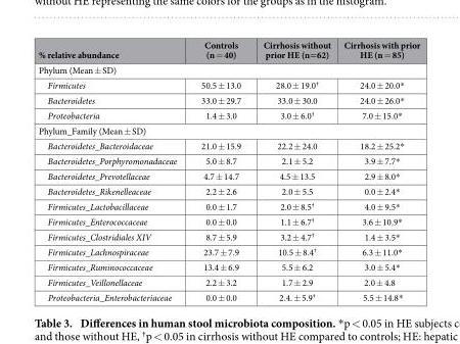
<table><thead><tr><td>% relative abundance</td><td>Controls (n = 40)</td><td>Cirrhosis without prior HE (n=62)</td><td>Cirrhosis with prior HE (n = 85)</td></tr></thead><tbody><tr><td colspan="4">Phylum (Mean ± SD)</td></tr><tr><td>Firmicutes</td><td>50.5 ± 13.0</td><td>28.0 ± 19.0<sup>†</sup></td><td>24.0 ± 20.0*</td></tr><tr><td>Bacteroidetes</td><td>33.0 ± 29.7</td><td>33.0 ± 30.0</td><td>24.0 ± 26.0*</td></tr><tr><td>Proteobacteria</td><td>1.4 ± 3.0</td><td>3.0 ± 6.0<sup>†</sup></td><td>7.0 ± 15.0*</td></tr><tr><td colspan="4">Phylum_Family (Mean ± SD)</td></tr><tr><td>Bacteroidetes_Bacteroidaceae</td><td>21.0 ± 15.9</td><td>22.2 ± 24.0</td><td>18.2 ± 25.2*</td></tr><tr><td>Bacteroidetes_Porphyromonadaceae</td><td>5.0 ± 8.7</td><td>2.1 ± 5.2</td><td>3.9 ± 7.7*</td></tr><tr><td>Bacteroidetes_Prevotellaceae</td><td>4.7 ± 14.7</td><td>4.5 ± 13.5</td><td>2.9 ± 8.0*</td></tr><tr><td>Bacteroidetes_Rikenelleaceae</td><td>2.2 ± 2.6</td><td>2.0 ± 5.5</td><td>0.0 ± 2.4*</td></tr><tr><td>Firmicutes_Lactobacillaceae</td><td>0.0 ± 1.7</td><td>2.0 ± 8.5<sup>†</sup></td><td>4.0 ± 9.5*</td></tr><tr><td>Firmicutes_Enterococcaceae</td><td>0.0 ± 0.0</td><td>1.1 ± 6.7<sup>†</sup></td><td>3.6 ± 10.9*</td></tr><tr><td>Firmicutes_Clostridiales XIV</td><td>8.7 ± 5.9</td><td>3.2 ± 4.7<sup>†</sup></td><td>1.4 ± 3.5*</td></tr><tr><td>Firmicutes_Lachnospiraceae</td><td>23.7 ± 7.9</td><td>10.5 ± 8.4<sup>†</sup></td><td>6.3 ± 11.0*</td></tr><tr><td>Firmicutes_Ruminococcaceae</td><td>13.4 ± 6.9</td><td>5.5 ± 6.2</td><td>3.0 ± 5.4*</td></tr><tr><td>Firmicutes_Veillonellaceae</td><td>2.2 ± 3.2</td><td>1.7 ± 2.9</td><td>2.0 ± 4.8</td></tr><tr><td>Proteobacteria_Enterobacteriaceae</td><td>0.0 ± 0.0</td><td>2.4. ± 5.9<sup>†</sup></td><td>5.5 ± 14.8*</td></tr></tbody></table>